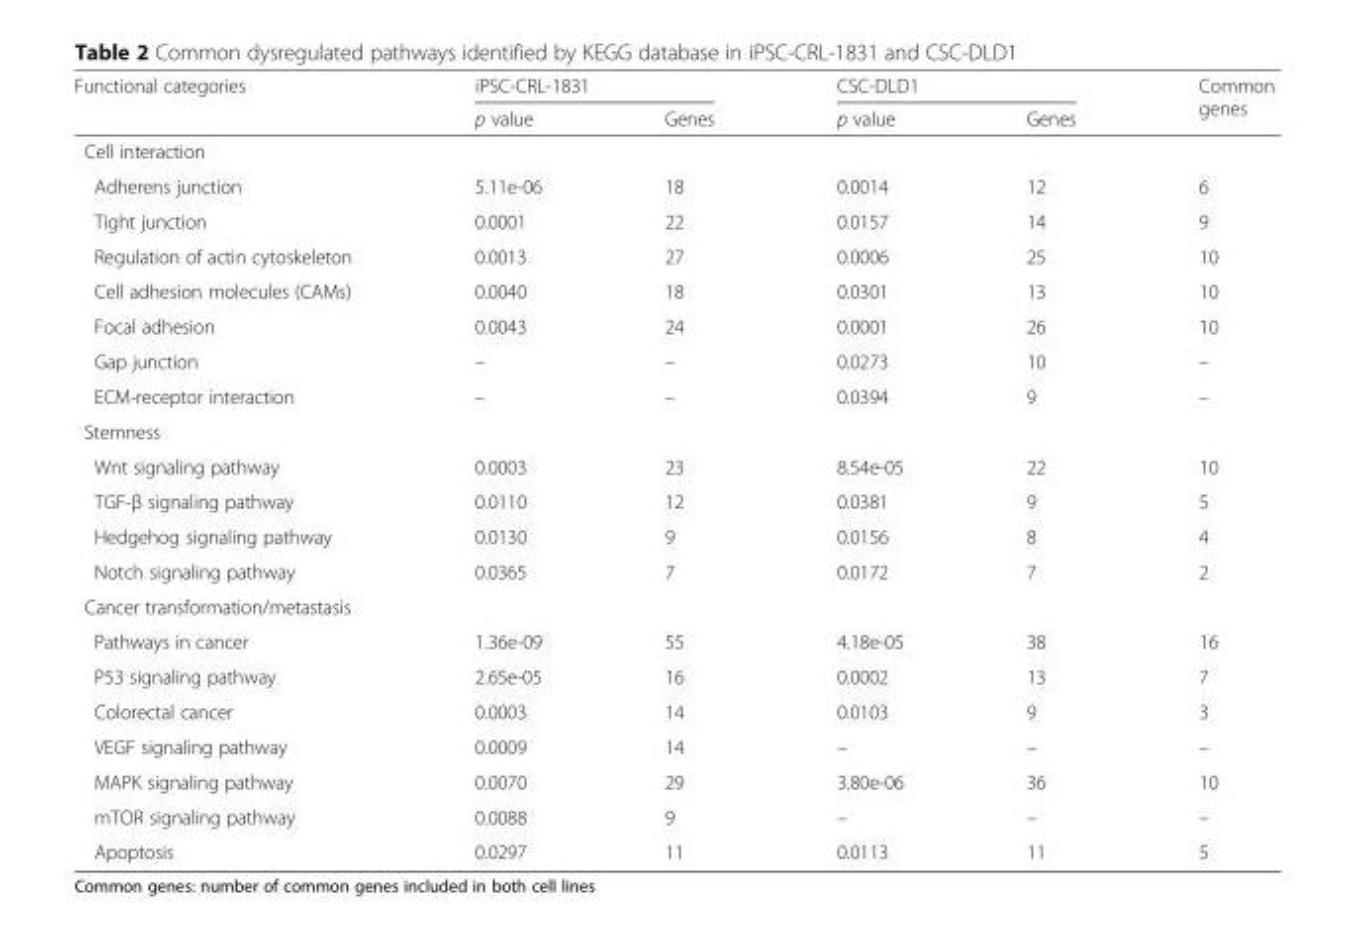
<table><thead><tr><td rowspan="2">Functional categories</td><td colspan="2">iPSC-CRL-1831</td><td colspan="2">CSC-DLD1</td><td rowspan="2">Common genes</td></tr><tr><td>p value</td><td>Genes</td><td>p value</td><td>Genes</td></tr></thead><tbody><tr><td colspan="6">Cell interaction</td></tr><tr><td>Adherens junction</td><td>5.11e-06</td><td>18</td><td>0.0014</td><td>12</td><td>6</td></tr><tr><td>Tight junction</td><td>0.0001</td><td>22</td><td>0.0157</td><td>14</td><td>9</td></tr><tr><td>Regulation of actin cytoskeleton</td><td>0.0013</td><td>27</td><td>0.0006</td><td>25</td><td>10</td></tr><tr><td>Cell adhesion molecules (CAMs)</td><td>0.0040</td><td>18</td><td>0.0301</td><td>13</td><td>10</td></tr><tr><td>Focal adhesion</td><td>0.0043</td><td>24</td><td>0.0001</td><td>26</td><td>10</td></tr><tr><td>Gap junction</td><td>–</td><td>–</td><td>0.0273</td><td>10</td><td>–</td></tr><tr><td>ECM-receptor interaction</td><td>–</td><td>–</td><td>0.0394</td><td>9</td><td>–</td></tr><tr><td colspan="6">Stemness</td></tr><tr><td>Wnt signaling pathway</td><td>0.0003</td><td>23</td><td>8.54e-05</td><td>22</td><td>10</td></tr><tr><td>TGF-β signaling pathway</td><td>0.0110</td><td>12</td><td>0.0381</td><td>9</td><td>5</td></tr><tr><td>Hedgehog signaling pathway</td><td>0.0130</td><td>9</td><td>0.0156</td><td>8</td><td>4</td></tr><tr><td>Notch signaling pathway</td><td>0.0365</td><td>7</td><td>0.0172</td><td>7</td><td>2</td></tr><tr><td colspan="6">Cancer transformation/metastasis</td></tr><tr><td>Pathways in cancer</td><td>1.36e-09</td><td>55</td><td>4.18e-05</td><td>38</td><td>16</td></tr><tr><td>P53 signaling pathway</td><td>2.65e-05</td><td>16</td><td>0.0002</td><td>13</td><td>7</td></tr><tr><td>Colorectal cancer</td><td>0.0003</td><td>14</td><td>0.0103</td><td>9</td><td>3</td></tr><tr><td>VEGF signaling pathway</td><td>0.0009</td><td>14</td><td>–</td><td>–</td><td>–</td></tr><tr><td>MAPK signaling pathway</td><td>0.0070</td><td>29</td><td>3.80e-06</td><td>36</td><td>10</td></tr><tr><td>mTOR signaling pathway</td><td>0.0088</td><td>9</td><td>–</td><td>–</td><td>–</td></tr><tr><td>Apoptosis</td><td>0.0297</td><td>11</td><td>0.0113</td><td>11</td><td>5</td></tr></tbody></table>